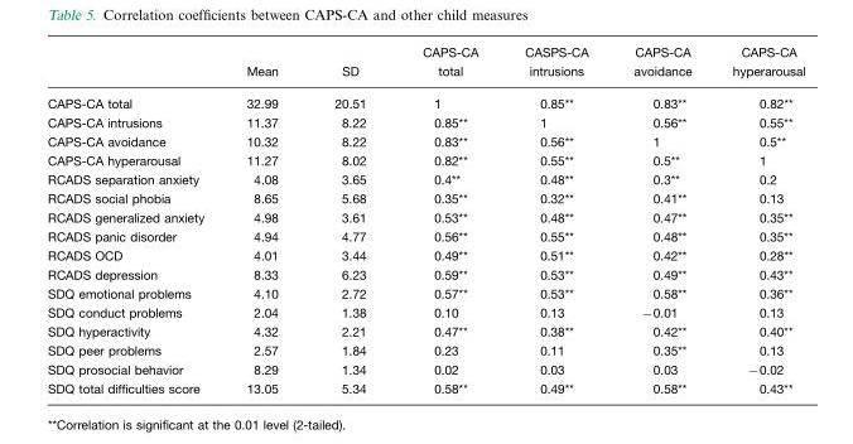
<table><thead><tr><td></td><td>Mean</td><td>SD</td><td>CAPS-CA total</td><td>CASPS-CA intrusions</td><td>CAPS-CA avoidance</td><td>CAPS-CA hyperarousal</td></tr></thead><tbody><tr><td>CAPS-CA total</td><td>32.99</td><td>20.51</td><td>1</td><td>0.85**</td><td>0.83**</td><td>0.82**</td></tr><tr><td>CAPS-CA intrusions</td><td>11.37</td><td>8.22</td><td>0.85**</td><td>1</td><td>0.56**</td><td>0.55**</td></tr><tr><td>CAPS-CA avoidance</td><td>10.32</td><td>8.22</td><td>0.83**</td><td>0.56**</td><td>1</td><td>0.5**</td></tr><tr><td>CAPS-CA hyperarousal</td><td>11.27</td><td>8.02</td><td>0.82**</td><td>0.55**</td><td>0.5**</td><td>1</td></tr><tr><td>RCADS separation anxiety</td><td>4.08</td><td>3.65</td><td>0.4**</td><td>0.48**</td><td>0.3**</td><td>0.2</td></tr><tr><td>RCADS social phobia</td><td>8.65</td><td>5.68</td><td>0.35**</td><td>0.32**</td><td>0.41**</td><td>0.13</td></tr><tr><td>RCADS generalized anxiety</td><td>4.98</td><td>3.61</td><td>0.53**</td><td>0.48**</td><td>0.47**</td><td>0.35**</td></tr><tr><td>RCADS panic disorder</td><td>4.94</td><td>4.77</td><td>0.56**</td><td>0.55**</td><td>0.48**</td><td>0.35**</td></tr><tr><td>RCADS OCD</td><td>4.01</td><td>3.44</td><td>0.49**</td><td>0.51**</td><td>0.42**</td><td>0.28**</td></tr><tr><td>RCADS depression</td><td>8.33</td><td>6.23</td><td>0.59**</td><td>0.53**</td><td>0.49**</td><td>0.43**</td></tr><tr><td>SDQ emotional problems</td><td>4.10</td><td>2.72</td><td>0.57**</td><td>0.53**</td><td>0.58**</td><td>0.36**</td></tr><tr><td>SDQ conduct problems</td><td>2.04</td><td>1.38</td><td>0.10</td><td>0.13</td><td>−0.01</td><td>0.13</td></tr><tr><td>SDQ hyperactivity</td><td>4.32</td><td>2.21</td><td>0.47**</td><td>0.38**</td><td>0.42**</td><td>0.40**</td></tr><tr><td>SDQ peer problems</td><td>2.57</td><td>1.84</td><td>0.23</td><td>0.11</td><td>0.35**</td><td>0.13</td></tr><tr><td>SDQ prosocial behavior</td><td>8.29</td><td>1.34</td><td>0.02</td><td>0.03</td><td>0.03</td><td>−0.02</td></tr><tr><td>SDQ total difficulties score</td><td>13.05</td><td>5.34</td><td>0.58**</td><td>0.49**</td><td>0.58**</td><td>0.43**</td></tr></tbody></table>